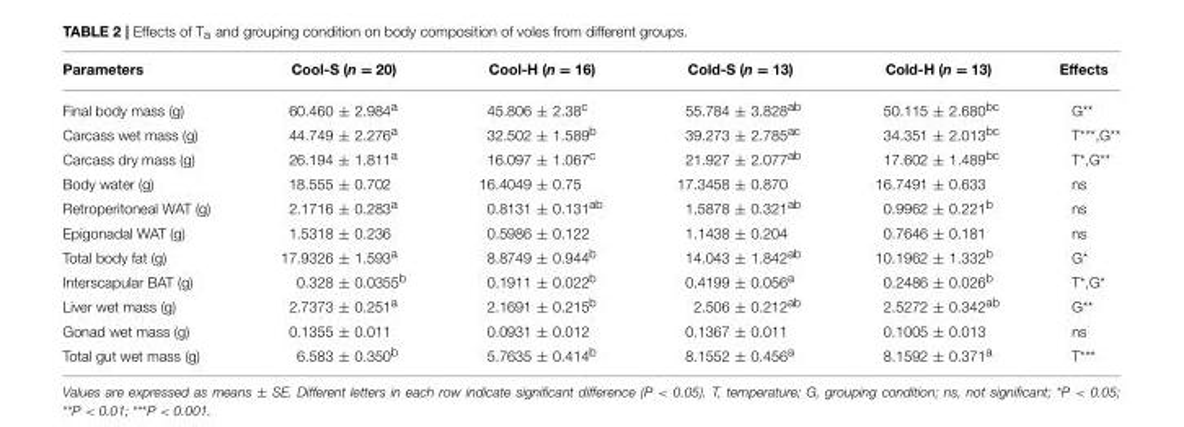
<table><thead><tr><td>Parameters</td><td>Cool-S (n = 20)</td><td>Cool-H (n = 16)</td><td>Cold-S (n = 13)</td><td>Cold-H (n = 13)</td><td>Effects</td></tr></thead><tbody><tr><td>Final body mass (g)</td><td>60.460 ± 2.984<sup>a</sup></td><td>45.806 ± 2.38<sup>c</sup></td><td>55.784 ± 3.828<sup>ab</sup></td><td>50.115 ± 2.680<sup>bc</sup></td><td>G**</td></tr><tr><td>Carcass wet mass (g)</td><td>44.749 ± 2.276<sup>a</sup></td><td>32.502 ± 1.589<sup>b</sup></td><td>39.273 ± 2.785<sup>ac</sup></td><td>34.351 ± 2.013<sup>bc</sup></td><td>T***,G**</td></tr><tr><td>Carcass dry mass (g)</td><td>26.194 ± 1.811<sup>a</sup></td><td>16.097 ± 1.067<sup>c</sup></td><td>21.927 ± 2.077<sup>ab</sup></td><td>17.602 ± 1.489<sup>bc</sup></td><td>T*,G**</td></tr><tr><td>Body water (g)</td><td>18.555 ± 0.702</td><td>16.4049 ± 0.75</td><td>17.3458 ± 0.870</td><td>16.7491 ± 0.633</td><td>ns</td></tr><tr><td>Retroperitoneal WAT (g)</td><td>2.1716 ± 0.283<sup>a</sup></td><td>0.8131 ± 0.131<sup>ab</sup></td><td>1.5878 ± 0.321<sup>ab</sup></td><td>0.9962 ± 0.221<sup>b</sup></td><td>ns</td></tr><tr><td>Epigonadal WAT (g)</td><td>1.5318 ± 0.236</td><td>0.5986 ± 0.122</td><td>1.1438 ± 0.204</td><td>0.7646 ± 0.181</td><td>ns</td></tr><tr><td>Total body fat (g)</td><td>17.9326 ± 1.593<sup>a</sup></td><td>8.8749 ± 0.944<sup>b</sup></td><td>14.043 ± 1.842<sup>ab</sup></td><td>10.1962 ± 1.332<sup>b</sup></td><td>G*</td></tr><tr><td>Interscapular BAT (g)</td><td>0.328 ± 0.0355<sup>b</sup></td><td>0.1911 ± 0.022<sup>b</sup></td><td>0.4199 ± 0.056<sup>a</sup></td><td>0.2486 ± 0.026<sup>b</sup></td><td>T*,G*</td></tr><tr><td>Liver wet mass (g)</td><td>2.7373 ± 0.251<sup>a</sup></td><td>2.1691 ± 0.215<sup>b</sup></td><td>2.506 ± 0.212<sup>ab</sup></td><td>2.5272 ± 0.342<sup>ab</sup></td><td>G**</td></tr><tr><td>Gonad wet mass (g)</td><td>0.1355 ± 0.011</td><td>0.0931 ± 0.012</td><td>0.1367 ± 0.011</td><td>0.1005 ± 0.013</td><td>ns</td></tr><tr><td>Total gut wet mass (g)</td><td>6.583 ± 0.350<sup>b</sup></td><td>5.7635 ± 0.414<sup>b</sup></td><td>8.1552 ± 0.456<sup>a</sup></td><td>8.1592 ± 0.371<sup>a</sup></td><td>T***</td></tr></tbody></table>